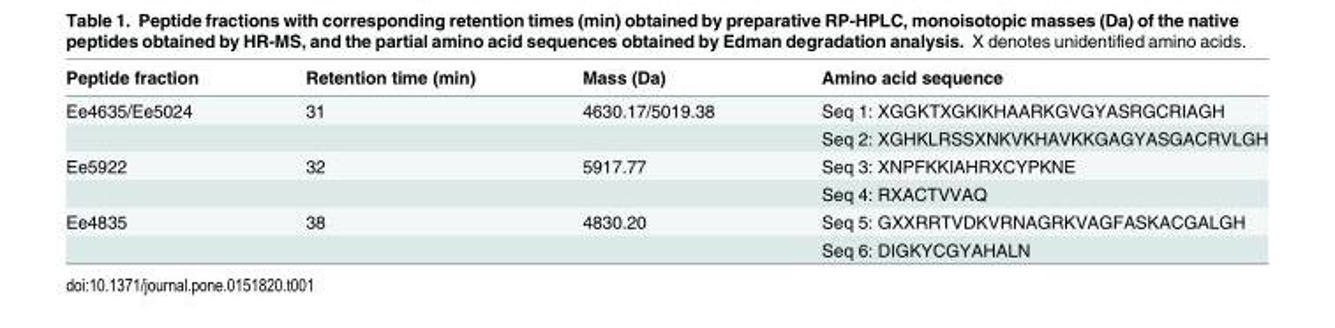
<table><thead><tr><td>Peptide fraction</td><td>Retention time (min)</td><td>Mass (Da)</td><td>Amino acid sequence</td></tr></thead><tbody><tr><td rowspan="2">Ee4635/Ee5024</td><td>31</td><td>4630.17/5019.38</td><td>Seq 1: XGGKTXGKIKHAARKGVGYASRGCRIAGH</td></tr><tr><td></td><td></td><td>Seq 2: XGHKLRSSXNKVKHAVKKGAGYASGACRVLGH</td></tr><tr><td rowspan="2">Ee5922</td><td>32</td><td>5917.77</td><td>Seq 3: XNPFKKIAHRXCYPKNE</td></tr><tr><td></td><td></td><td>Seq 4: RXACTVVAQ</td></tr><tr><td rowspan="2">Ee4835</td><td>38</td><td>4830.20</td><td>Seq 5: GXXRRTVDKVRNAGRKVAGFASKACGALGH</td></tr><tr><td></td><td></td><td>Seq 6: DIGKYCGYAHALN</td></tr></tbody></table>